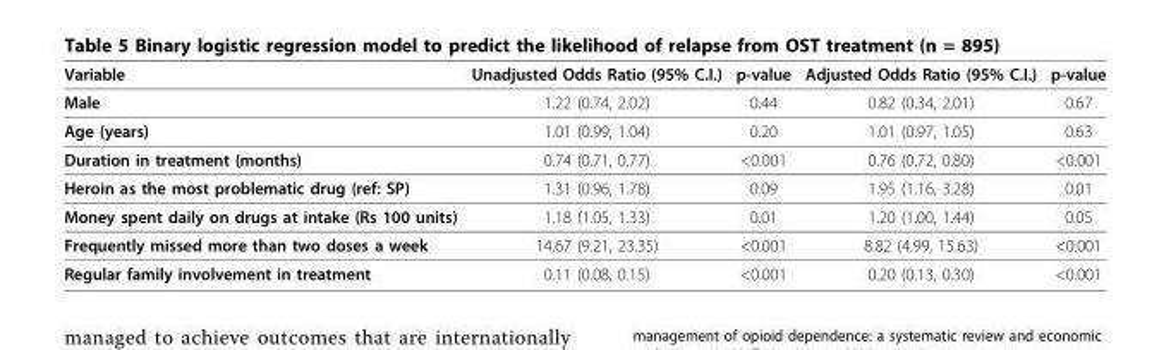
<table><thead><tr><td>Variable</td><td>Unadjusted Odds Ratio (95% C.I.)</td><td>p-value</td><td>Adjusted Odds Ratio (95% C.I.)</td><td>p-value</td></tr></thead><tbody><tr><td>Male</td><td>1.22 (0.74, 2.02)</td><td>0.44</td><td>0.82 (0.34, 2.01)</td><td>0.67</td></tr><tr><td>Age (years)</td><td>1.01 (0.99, 1.04)</td><td>0.20</td><td>1.01 (0.97, 1.05)</td><td>0.63</td></tr><tr><td>Duration in treatment (months)</td><td>0.74 (0.71, 0.77)</td><td>&lt;0.001</td><td>0.76 (0.72, 0.80)</td><td>&lt;0.001</td></tr><tr><td>Heroin as the most problematic drug (ref: SP)</td><td>1.31 (0.96, 1.78)</td><td>0.09</td><td>1.95 (1.16, 3.28)</td><td>0.01</td></tr><tr><td>Money spent daily on drugs at intake (Rs 100 units)</td><td>1.18 (1.05, 1.33)</td><td>0.01</td><td>1.20 (1.00, 1.44)</td><td>0.05</td></tr><tr><td>Frequently missed more than two doses a week</td><td>14.67 (9.21, 23.35)</td><td>&lt;0.001</td><td>8.82 (4.99, 15.63)</td><td>&lt;0.001</td></tr><tr><td>Regular family involvement in treatment</td><td>0.11 (0.08, 0.15)</td><td>&lt;0.001</td><td>0.20 (0.13, 0.30)</td><td>&lt;0.001</td></tr></tbody></table>